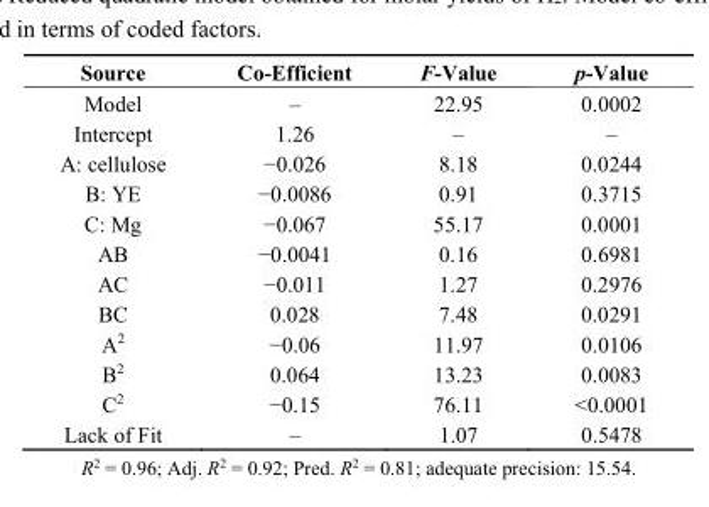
<table><thead><tr><td>Source</td><td>Co-Efficient</td><td>F-Value</td><td>p-Value</td></tr></thead><tbody><tr><td>Model</td><td>–</td><td>22.95</td><td>0.0002</td></tr><tr><td>Intercept</td><td>1.26</td><td>–</td><td>–</td></tr><tr><td>A: cellulose</td><td>−0.026</td><td>8.18</td><td>0.0244</td></tr><tr><td>B: YE</td><td>−0.0086</td><td>0.91</td><td>0.3715</td></tr><tr><td>C: Mg</td><td>−0.067</td><td>55.17</td><td>0.0001</td></tr><tr><td>AB</td><td>−0.0041</td><td>0.16</td><td>0.6981</td></tr><tr><td>AC</td><td>−0.011</td><td>1.27</td><td>0.2976</td></tr><tr><td>BC</td><td>0.028</td><td>7.48</td><td>0.0291</td></tr><tr><td>A<sup>2</sup></td><td>−0.06</td><td>11.97</td><td>0.0106</td></tr><tr><td>B<sup>2</sup></td><td>0.064</td><td>13.23</td><td>0.0083</td></tr><tr><td>C<sup>2</sup></td><td>−0.15</td><td>76.11</td><td>&lt;0.0001</td></tr><tr><td>Lack of Fit</td><td>–</td><td>1.07</td><td>0.5478</td></tr></tbody></table>